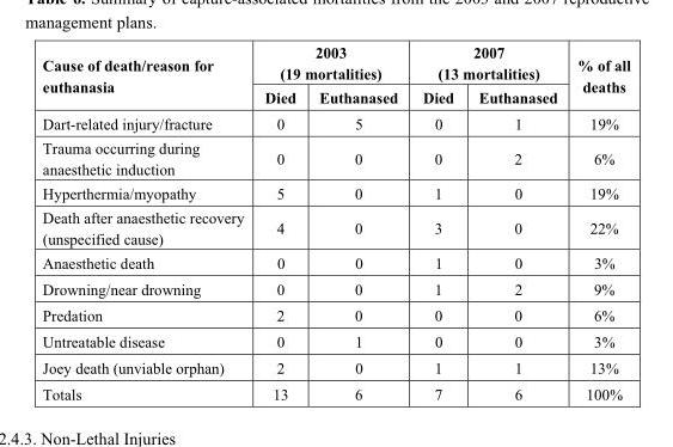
<table><thead><tr><td rowspan="2">Cause of death/reason for euthanasia</td><td colspan="2">2003 (19 mortalities)</td><td colspan="2">2007 (13 mortalities)</td><td rowspan="2">% of all deaths</td></tr><tr><td>Died</td><td>Euthanased</td><td>Died</td><td>Euthanased</td></tr></thead><tbody><tr><td>Dart-related injury/fracture</td><td>0</td><td>5</td><td>0</td><td>1</td><td>19%</td></tr><tr><td>Trauma occurring during anaesthetic induction</td><td>0</td><td>0</td><td>0</td><td>2</td><td>6%</td></tr><tr><td>Hyperthermia/myopathy</td><td>5</td><td>0</td><td>1</td><td>0</td><td>19%</td></tr><tr><td>Death after anaesthetic recovery (unspecified cause)</td><td>4</td><td>0</td><td>3</td><td>0</td><td>22%</td></tr><tr><td>Anaesthetic death</td><td>0</td><td>0</td><td>1</td><td>0</td><td>3%</td></tr><tr><td>Drowning/near drowning</td><td>0</td><td>0</td><td>1</td><td>2</td><td>9%</td></tr><tr><td>Predation</td><td>2</td><td>0</td><td>0</td><td>0</td><td>6%</td></tr><tr><td>Untreatable disease</td><td>0</td><td>1</td><td>0</td><td>0</td><td>3%</td></tr><tr><td>Joey death (unviable orphan)</td><td>2</td><td>0</td><td>1</td><td>1</td><td>13%</td></tr><tr><td>Totals</td><td>13</td><td>6</td><td>7</td><td>6</td><td>100%</td></tr></tbody></table>